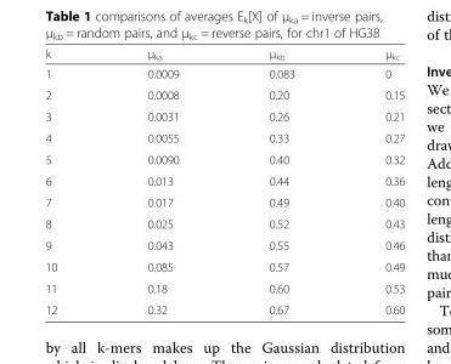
<table><thead><tr><td>k</td><td>μ<sub>ka</sub></td><td>μ<sub>kb</sub></td><td>μ<sub>kc</sub></td></tr></thead><tbody><tr><td>1</td><td>0.0009</td><td>0.083</td><td>0</td></tr><tr><td>2</td><td>0.0008</td><td>0.20</td><td>0.15</td></tr><tr><td>3</td><td>0.0031</td><td>0.26</td><td>0.21</td></tr><tr><td>4</td><td>0.0055</td><td>0.33</td><td>0.27</td></tr><tr><td>5</td><td>0.0090</td><td>0.40</td><td>0.32</td></tr><tr><td>6</td><td>0.013</td><td>0.44</td><td>0.36</td></tr><tr><td>7</td><td>0.017</td><td>0.49</td><td>0.40</td></tr><tr><td>8</td><td>0.025</td><td>0.52</td><td>0.43</td></tr><tr><td>9</td><td>0.043</td><td>0.55</td><td>0.46</td></tr><tr><td>10</td><td>0.085</td><td>0.57</td><td>0.49</td></tr><tr><td>11</td><td>0.18</td><td>0.60</td><td>0.53</td></tr><tr><td>12</td><td>0.32</td><td>0.67</td><td>0.60</td></tr></tbody></table>